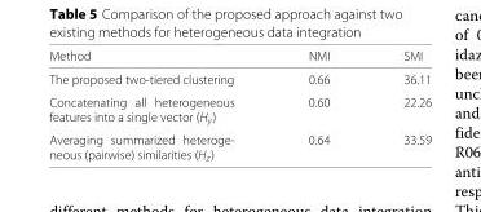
<table><thead><tr><td>Method</td><td>NMI</td><td>SMI</td></tr></thead><tbody><tr><td>The proposed two-tiered clustering</td><td>0.66</td><td>36.11</td></tr><tr><td>Concatenating all heterogeneous features into a single vector (H<sub>y</sub>)</td><td>0.60</td><td>22.26</td></tr><tr><td>Averaging summarized heteroge- neous (pairwise) similarities (Hz)</td><td>0.64</td><td>33.59</td></tr></tbody></table>